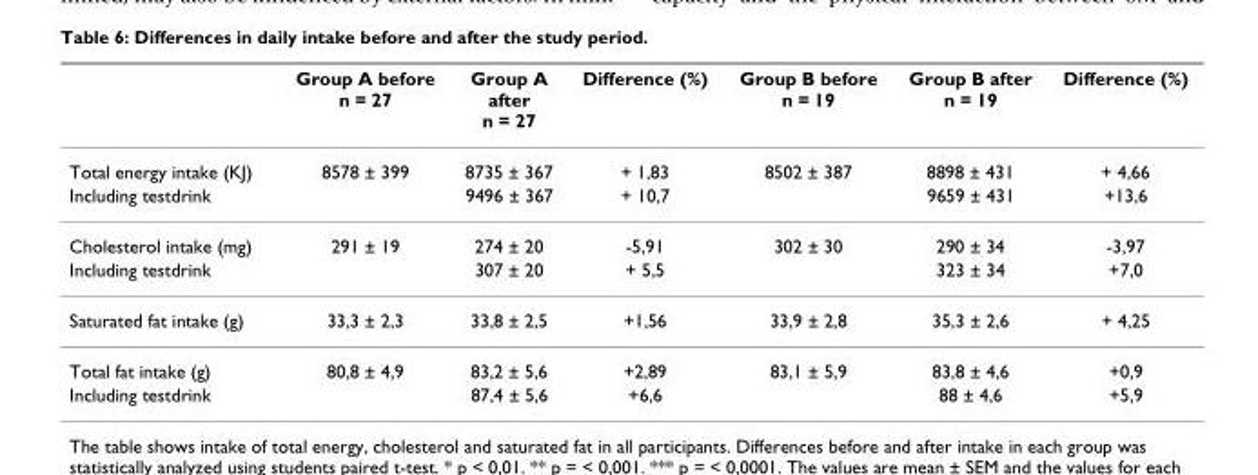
<table><thead><tr><td></td><td>Group A before n = 27</td><td>Group A after n = 27</td><td>Difference (%)</td><td>Group B before n = 19</td><td>Group B after n = 19</td><td>Difference (%)</td></tr></thead><tbody><tr><td>Total energy intake (KJ)</td><td>8578 ± 399</td><td>8735 ± 367</td><td>+ 1,83</td><td>8502 ± 387</td><td>8898 ± 431</td><td>+ 4,66</td></tr><tr><td>Including testdrink</td><td></td><td>9496 ± 367</td><td>+ 10,7</td><td></td><td>9659 ± 431</td><td>+13,6</td></tr><tr><td>Cholesterol intake (mg)</td><td>291 ± 19</td><td>274 ± 20</td><td>-5,91</td><td>302 ± 30</td><td>290 ± 34</td><td>-3,97</td></tr><tr><td>Including testdrink</td><td></td><td>307 ± 20</td><td>+ 5,5</td><td></td><td>323 ± 34</td><td>+7,0</td></tr><tr><td>Saturated fat intake (g)</td><td>33,3 ± 2,3</td><td>33,8 ± 2,5</td><td>+1,56</td><td>33,9 ± 2,8</td><td>35,3 ± 2,6</td><td>+ 4,25</td></tr><tr><td>Total fat intake (g)</td><td>80,8 ± 4,9</td><td>83,2 ± 5,6</td><td>+2,89</td><td>83,1 ± 5,9</td><td>83,8 ± 4,6</td><td>+0,9</td></tr><tr><td>Including testdrink</td><td></td><td>87,4 ± 5,6</td><td>+6,6</td><td></td><td>88 ± 4,6</td><td>+5,9</td></tr></tbody></table>